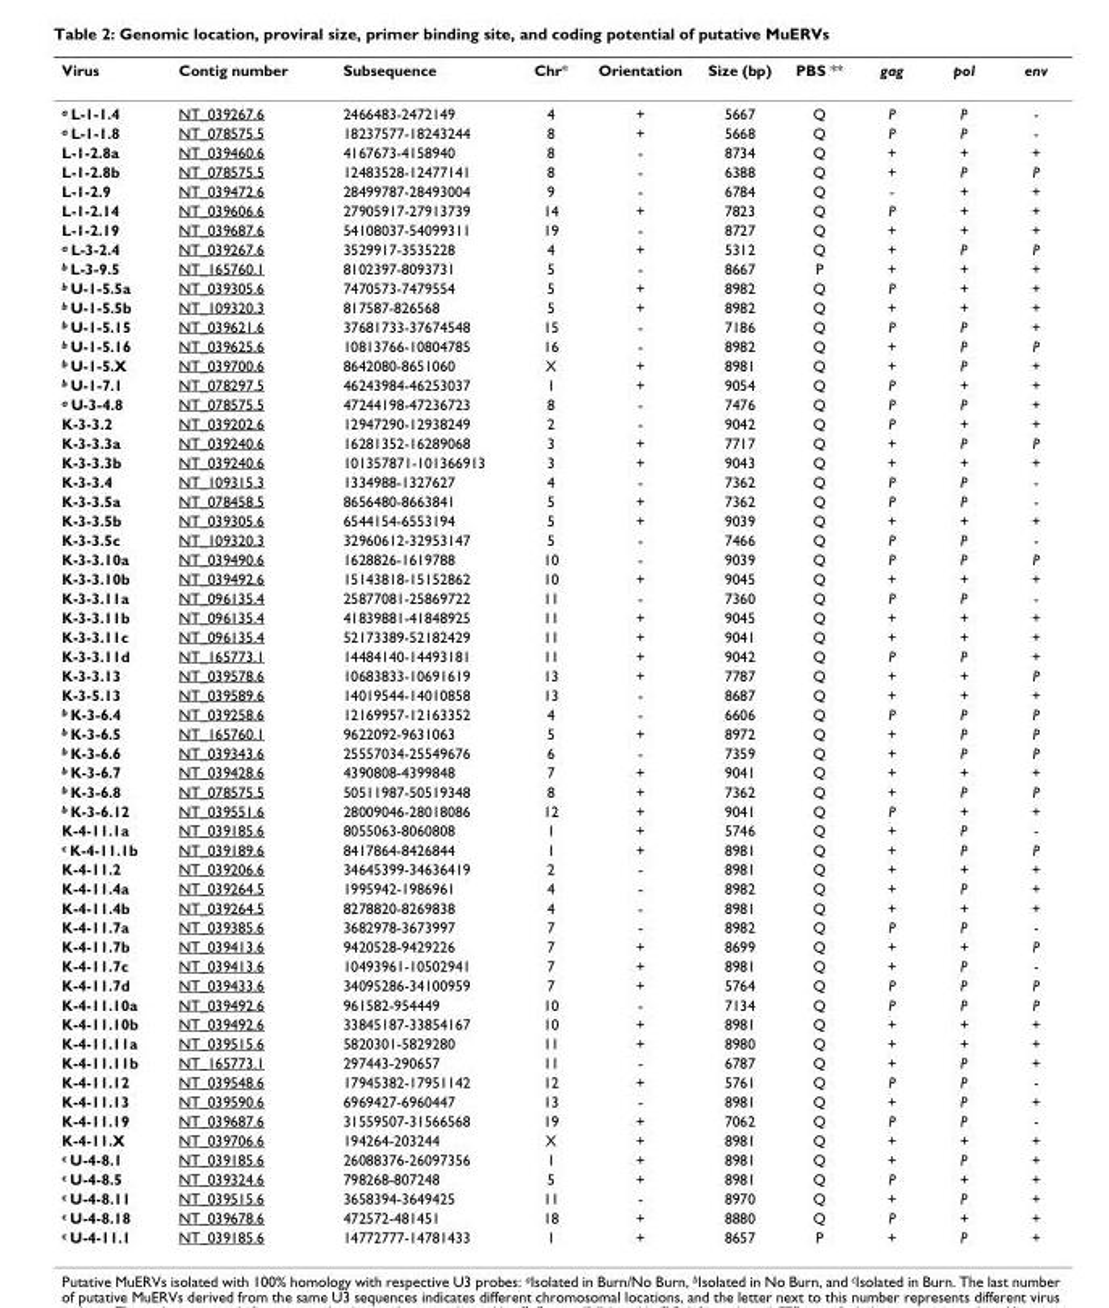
<table><thead><tr><td>Virus</td><td>Contig number</td><td>Subsequence</td><td>Chr*</td><td>Orientation</td><td>Size (bp)</td><td>PBS **</td><td>gag</td><td>pol</td><td>env</td></tr></thead><tbody><tr><td><sup>a</sup> L-1-1.4</td><td>NT_039267.6</td><td>2466483-2472149</td><td>4</td><td>+</td><td>5667</td><td>Q</td><td>P</td><td>P</td><td>-</td></tr><tr><td><sup>a</sup> L-1-1.8</td><td>NT_078575.5</td><td>18237577-18243244</td><td>8</td><td>+</td><td>5668</td><td>Q</td><td>P</td><td>P</td><td>-</td></tr><tr><td>L-1-2.8a</td><td>NT_039460.6</td><td>4167673-4158940</td><td>8</td><td>-</td><td>8734</td><td>Q</td><td>+</td><td>+</td><td>+</td></tr><tr><td>L-1-2.8b</td><td>NT_078575.5</td><td>12483528-12477141</td><td>8</td><td>-</td><td>6388</td><td>Q</td><td>+</td><td>P</td><td>P</td></tr><tr><td>L-1-2.9</td><td>NT_039472.6</td><td>28499787-28493004</td><td>9</td><td>-</td><td>6784</td><td>Q</td><td>-</td><td>+</td><td>+</td></tr><tr><td>L-1-2.14</td><td>NT_039606.6</td><td>27905917-27913739</td><td>14</td><td>+</td><td>7823</td><td>Q</td><td>P</td><td>+</td><td>+</td></tr><tr><td>L-1-2.19</td><td>NT_039687.6</td><td>54108037-54099311</td><td>19</td><td>-</td><td>8727</td><td>Q</td><td>+</td><td>+</td><td>+</td></tr><tr><td><sup>a</sup> L-3-2.4</td><td>NT_039267.6</td><td>3529917-3535228</td><td>4</td><td>+</td><td>5312</td><td>Q</td><td>+</td><td>P</td><td>P</td></tr><tr><td><sup>b</sup> L-3-9.5</td><td>NT_165760.1</td><td>8102397-8093731</td><td>5</td><td>-</td><td>8667</td><td>P</td><td>+</td><td>+</td><td>+</td></tr><tr><td><sup>b</sup> U-1-5.5a</td><td>NT_039305.6</td><td>7470573-7479554</td><td>5</td><td>+</td><td>8982</td><td>Q</td><td>P</td><td>+</td><td>+</td></tr><tr><td><sup>b</sup> U-1-5.5b</td><td>NT_109320.3</td><td>817587-826568</td><td>5</td><td>+</td><td>8982</td><td>Q</td><td>+</td><td>+</td><td>+</td></tr><tr><td><sup>b</sup> U-1-5.15</td><td>NT_039621.6</td><td>37681733-37674548</td><td>15</td><td>-</td><td>7186</td><td>Q</td><td>P</td><td>P</td><td>+</td></tr><tr><td><sup>b</sup> U-1-5.16</td><td>NT_039625.6</td><td>10813766-10804785</td><td>16</td><td>-</td><td>8982</td><td>Q</td><td>+</td><td>P</td><td>P</td></tr><tr><td><sup>b</sup> U-1-5.X</td><td>NT_039700.6</td><td>8642080-8651060</td><td>X</td><td>+</td><td>8981</td><td>Q</td><td>+</td><td>P</td><td>+</td></tr><tr><td><sup>b</sup> U-1-7.1</td><td>NT_078297.5</td><td>46243984-46253037</td><td>1</td><td>+</td><td>9054</td><td>Q</td><td>P</td><td>+</td><td>+</td></tr><tr><td><sup>a</sup> U-3-4.8</td><td>NT_078575.5</td><td>47244198-47236723</td><td>8</td><td>-</td><td>7476</td><td>Q</td><td>P</td><td>P</td><td>+</td></tr><tr><td>K-3-3.2</td><td>NT_039202.6</td><td>12947290-12938249</td><td>2</td><td>-</td><td>9042</td><td>Q</td><td>P</td><td>+</td><td>+</td></tr><tr><td>K-3-3.3a</td><td>NT_039240.6</td><td>16281352-16289068</td><td>3</td><td>+</td><td>7717</td><td>Q</td><td>+</td><td>P</td><td>P</td></tr><tr><td>K-3-3.3b</td><td>NT_039240.6</td><td>101357871-101366913</td><td>3</td><td>+</td><td>9043</td><td>Q</td><td>+</td><td>+</td><td>+</td></tr><tr><td>K-3-3.4</td><td>NT_109315.3</td><td>1334988-1327627</td><td>4</td><td>-</td><td>7362</td><td>Q</td><td>P</td><td>P</td><td>-</td></tr><tr><td>K-3-3.5a</td><td>NT_078458.5</td><td>8656480-8663841</td><td>5</td><td>+</td><td>7362</td><td>Q</td><td>P</td><td>P</td><td>-</td></tr><tr><td>K-3-3.5b</td><td>NT_039305.6</td><td>6544154-6553194</td><td>5</td><td>+</td><td>9039</td><td>Q</td><td>+</td><td>+</td><td>+</td></tr><tr><td>K-3-3.5c</td><td>NT_109320.3</td><td>32960612-32953147</td><td>5</td><td>-</td><td>7466</td><td>Q</td><td>P</td><td>P</td><td>-</td></tr><tr><td>K-3-3.10a</td><td>NT_039490.6</td><td>1628826-1619788</td><td>10</td><td>-</td><td>9039</td><td>Q</td><td>P</td><td>P</td><td>P</td></tr><tr><td>K-3-3.10b</td><td>NT_039492.6</td><td>15143818-15152862</td><td>10</td><td>+</td><td>9045</td><td>Q</td><td>+</td><td>+</td><td>+</td></tr><tr><td>K-3-3.11a</td><td>NT_096135.4</td><td>25877081-25869722</td><td>11</td><td>-</td><td>7360</td><td>Q</td><td>P</td><td>P</td><td>-</td></tr><tr><td>K-3-3.11b</td><td>NT_096135.4</td><td>41839881-41848925</td><td>11</td><td>+</td><td>9045</td><td>Q</td><td>+</td><td>+</td><td>+</td></tr><tr><td>K-3-3.11c</td><td>NT_096135.4</td><td>52173389-52182429</td><td>11</td><td>+</td><td>9041</td><td>Q</td><td>+</td><td>+</td><td>+</td></tr><tr><td>K-3-3.11d</td><td>NT_165773.1</td><td>14484140-14493181</td><td>11</td><td>+</td><td>9042</td><td>Q</td><td>P</td><td>P</td><td>+</td></tr><tr><td>K-3-3.13</td><td>NT_039578.6</td><td>10683833-10691619</td><td>13</td><td>+</td><td>7787</td><td>Q</td><td>+</td><td>+</td><td>P</td></tr><tr><td>K-3-5.13</td><td>NT_039589.6</td><td>14019544-14010858</td><td>13</td><td>-</td><td>8687</td><td>Q</td><td>+</td><td>+</td><td>+</td></tr><tr><td><sup>b</sup> K-3-6.4</td><td>NT_039258.6</td><td>12169957-12163352</td><td>4</td><td>-</td><td>6606</td><td>Q</td><td>P</td><td>P</td><td>P</td></tr><tr><td><sup>b</sup> K-3-6.5</td><td>NT_165760.1</td><td>9622092-9631063</td><td>5</td><td>+</td><td>8972</td><td>Q</td><td>+</td><td>P</td><td>P</td></tr><tr><td><sup>b</sup> K-3-6.6</td><td>NT_039343.6</td><td>25557034-25549676</td><td>6</td><td>-</td><td>7359</td><td>Q</td><td>+</td><td>P</td><td>P</td></tr><tr><td><sup>b</sup> K-3-6.7</td><td>NT_039428.6</td><td>4390808-4399848</td><td>7</td><td>+</td><td>9041</td><td>Q</td><td>+</td><td>+</td><td>+</td></tr><tr><td><sup>b</sup> K-3-6.8</td><td>NT_078575.5</td><td>50511987-50519348</td><td>8</td><td>+</td><td>7362</td><td>Q</td><td>+</td><td>P</td><td>P</td></tr><tr><td><sup>b</sup> K-3-6.12</td><td>NT_039551.6</td><td>28009046-28018086</td><td>12</td><td>+</td><td>9041</td><td>Q</td><td>P</td><td>+</td><td>+</td></tr><tr><td>K-4-11.1a</td><td>NT_039185.6</td><td>8055063-8060808</td><td>1</td><td>+</td><td>5746</td><td>Q</td><td>+</td><td>P</td><td>-</td></tr><tr><td><sup>c</sup> K-4-11.1b</td><td>NT_039189.6</td><td>8417864-8426844</td><td>1</td><td>+</td><td>8981</td><td>Q</td><td>+</td><td>P</td><td>P</td></tr><tr><td>K-4-11.2</td><td>NT_039206.6</td><td>34645399-34636419</td><td>2</td><td>-</td><td>8981</td><td>Q</td><td>+</td><td>+</td><td>+</td></tr><tr><td>K-4-11.4a</td><td>NT_039264.5</td><td>1995942-1986961</td><td>4</td><td>-</td><td>8982</td><td>Q</td><td>+</td><td>P</td><td>+</td></tr><tr><td>K-4-11.4b</td><td>NT_039264.5</td><td>8278820-8269838</td><td>4</td><td>-</td><td>8981</td><td>Q</td><td>+</td><td>+</td><td>+</td></tr><tr><td>K-4-11.7a</td><td>NT_039385.6</td><td>3682978-3673997</td><td>7</td><td>-</td><td>8982</td><td>Q</td><td>P</td><td>P</td><td>-</td></tr><tr><td>K-4-11.7b</td><td>NT_039413.6</td><td>9420528-9429226</td><td>7</td><td>+</td><td>8699</td><td>Q</td><td>+</td><td>+</td><td>P</td></tr><tr><td>K-4-11.7c</td><td>NT_039413.6</td><td>10493961-10502941</td><td>7</td><td>+</td><td>8981</td><td>Q</td><td>+</td><td>P</td><td>-</td></tr><tr><td>K-4-11.7d</td><td>NT_039433.6</td><td>34095286-34100959</td><td>7</td><td>+</td><td>5764</td><td>Q</td><td>P</td><td>P</td><td>P</td></tr><tr><td>K-4-11.10a</td><td>NT_039492.6</td><td>961582-954449</td><td>10</td><td>-</td><td>7134</td><td>Q</td><td>P</td><td>P</td><td>P</td></tr><tr><td>K-4-11.10b</td><td>NT_039492.6</td><td>33845187-33854167</td><td>10</td><td>+</td><td>8981</td><td>Q</td><td>+</td><td>+</td><td>+</td></tr><tr><td>K-4-11.11a</td><td>NT_039515.6</td><td>5820301-5829280</td><td>11</td><td>+</td><td>8980</td><td>Q</td><td>+</td><td>+</td><td>+</td></tr><tr><td>K-4-11.11b</td><td>NT_165773.1</td><td>297443-290657</td><td>11</td><td>-</td><td>6787</td><td>Q</td><td>+</td><td>P</td><td>+</td></tr><tr><td>K-4-11.12</td><td>NT_039548.6</td><td>17945382-17951142</td><td>12</td><td>+</td><td>5761</td><td>Q</td><td>P</td><td>P</td><td>-</td></tr><tr><td>K-4-11.13</td><td>NT_039590.6</td><td>6969427-6960447</td><td>13</td><td>-</td><td>8981</td><td>Q</td><td>+</td><td>P</td><td>+</td></tr><tr><td>K-4-11.19</td><td>NT_039687.6</td><td>31559507-31566568</td><td>19</td><td>+</td><td>7062</td><td>Q</td><td>P</td><td>P</td><td>-</td></tr><tr><td>K-4-11.X</td><td>NT_039706.6</td><td>194264-203244</td><td>X</td><td>+</td><td>8981</td><td>Q</td><td>+</td><td>+</td><td>+</td></tr><tr><td><sup>c</sup> U-4-8.1</td><td>NT_039185.6</td><td>26088376-26097356</td><td>1</td><td>+</td><td>8981</td><td>Q</td><td>+</td><td>P</td><td>+</td></tr><tr><td><sup>c</sup> U-4-8.5</td><td>NT_039324.6</td><td>798268-807248</td><td>5</td><td>+</td><td>8981</td><td>Q</td><td>P</td><td>+</td><td>+</td></tr><tr><td><sup>c</sup> U-4-8.11</td><td>NT_039515.6</td><td>3658394-3649425</td><td>11</td><td>-</td><td>8970</td><td>Q</td><td>+</td><td>P</td><td>+</td></tr><tr><td><sup>c</sup> U-4-8.18</td><td>NT_039678.6</td><td>472572-481451</td><td>18</td><td>+</td><td>8880</td><td>Q</td><td>P</td><td>+</td><td>+</td></tr><tr><td><sup>c</sup> U-4-11.1</td><td>NT_039185.6</td><td>14772777-14781433</td><td>1</td><td>+</td><td>8657</td><td>P</td><td>+</td><td>P</td><td>+</td></tr></tbody></table>